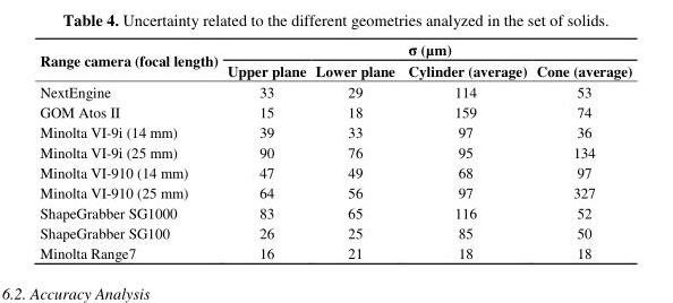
<table><thead><tr><td rowspan="2">Range camera (focal length)</td><td colspan="4">σ (µm)</td></tr><tr><td>Upper plane</td><td>Lower plane</td><td>Cylinder (average)</td><td>Cone (average)</td></tr></thead><tbody><tr><td>NextEngine</td><td>33</td><td>29</td><td>114</td><td>53</td></tr><tr><td>GOM Atos II</td><td>15</td><td>18</td><td>159</td><td>74</td></tr><tr><td>Minolta VI-9i (14 mm)</td><td>39</td><td>33</td><td>97</td><td>36</td></tr><tr><td>Minolta VI-9i (25 mm)</td><td>90</td><td>76</td><td>95</td><td>134</td></tr><tr><td>Minolta VI-910 (14 mm)</td><td>47</td><td>49</td><td>68</td><td>97</td></tr><tr><td>Minolta VI-910 (25 mm)</td><td>64</td><td>56</td><td>97</td><td>327</td></tr><tr><td>ShapeGrabber SG1000</td><td>83</td><td>65</td><td>116</td><td>52</td></tr><tr><td>ShapeGrabber SG100</td><td>26</td><td>25</td><td>85</td><td>50</td></tr><tr><td>Minolta Range7</td><td>16</td><td>21</td><td>18</td><td>18</td></tr></tbody></table>